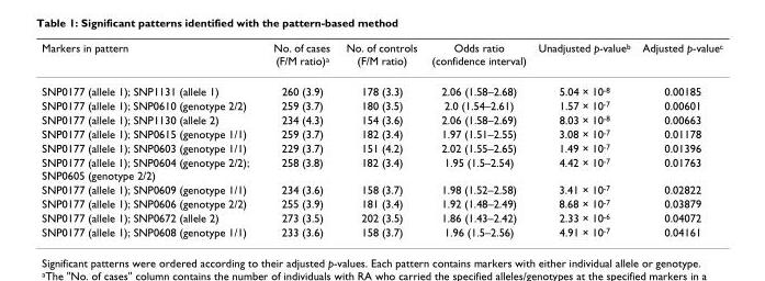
<table><thead><tr><td>Markers in pattern</td><td>No. of cases (F/M ratio)<sup>a</sup></td><td>No. of controls (F/M ratio)</td><td>Odds ratio (confidence interval)</td><td>Unadjusted p-value<sup>b</sup></td><td>Adjusted p-value<sup>c</sup></td></tr></thead><tbody><tr><td>SNP0177 (allele 1); SNP1131 (allele 1)</td><td>260 (3.9)</td><td>178 (3.3)</td><td>2.06 (1.58–2.68)</td><td>5.04 × 10<sup>-8</sup></td><td>0.00185</td></tr><tr><td>SNP0177 (allele 1); SNP0610 (genotype 2/2)</td><td>259 (3.7)</td><td>180 (3.5)</td><td>2.0 (1.54–2.61)</td><td>1.57 × 10<sup>-7</sup></td><td>0.00601</td></tr><tr><td>SNP0177 (allele 1); SNP1130 (allele 2)</td><td>234 (4.3)</td><td>154 (3.6)</td><td>2.06 (1.58–2.69)</td><td>8.03 × 10<sup>-8</sup></td><td>0.00663</td></tr><tr><td>SNP0177 (allele 1); SNP0615 (genotype 1/1)</td><td>259 (3.7)</td><td>182 (3.4)</td><td>1.97 (1.51–2.55)</td><td>3.08 × 10<sup>-7</sup></td><td>0.01178</td></tr><tr><td>SNP0177 (allele 1); SNP0603 (genotype 1/1)</td><td>229 (3.7)</td><td>151 (4.2)</td><td>2.02 (1.55–2.65)</td><td>1.49 × 10<sup>-7</sup></td><td>0.01396</td></tr><tr><td>SNP0177 (allele 1); SNP0604 (genotype 2/2); SNP0605 (genotype 2/2)</td><td>258 (3.8)</td><td>182 (3.4)</td><td>1.95 (1.5–2.54)</td><td>4.42 × 10<sup>-7</sup></td><td>0.01763</td></tr><tr><td>SNP0177 (allele 1); SNP0609 (genotype 1/1)</td><td>234 (3.6)</td><td>158 (3.7)</td><td>1.98 (1.52–2.58)</td><td>3.41 × 10<sup>-7</sup></td><td>0.02822</td></tr><tr><td>SNP0177 (allele 1); SNP0606 (genotype 2/2)</td><td>255 (3.9)</td><td>181 (3.4)</td><td>1.92 (1.48–2.49)</td><td>8.68 × 10<sup>-7</sup></td><td>0.03879</td></tr><tr><td>SNP0177 (allele 1); SNP0672 (allele 2)</td><td>273 (3.5)</td><td>202 (3.5)</td><td>1.86 (1.43–2.42)</td><td>2.33 × 10<sup>-6</sup></td><td>0.04072</td></tr><tr><td>SNP0177 (allele 1); SNP0608 (genotype 1/1)</td><td>233 (3.6)</td><td>158 (3.7)</td><td>1.96 (1.5–2.56)</td><td>4.91 × 10<sup>-7</sup></td><td>0.04161</td></tr></tbody></table>